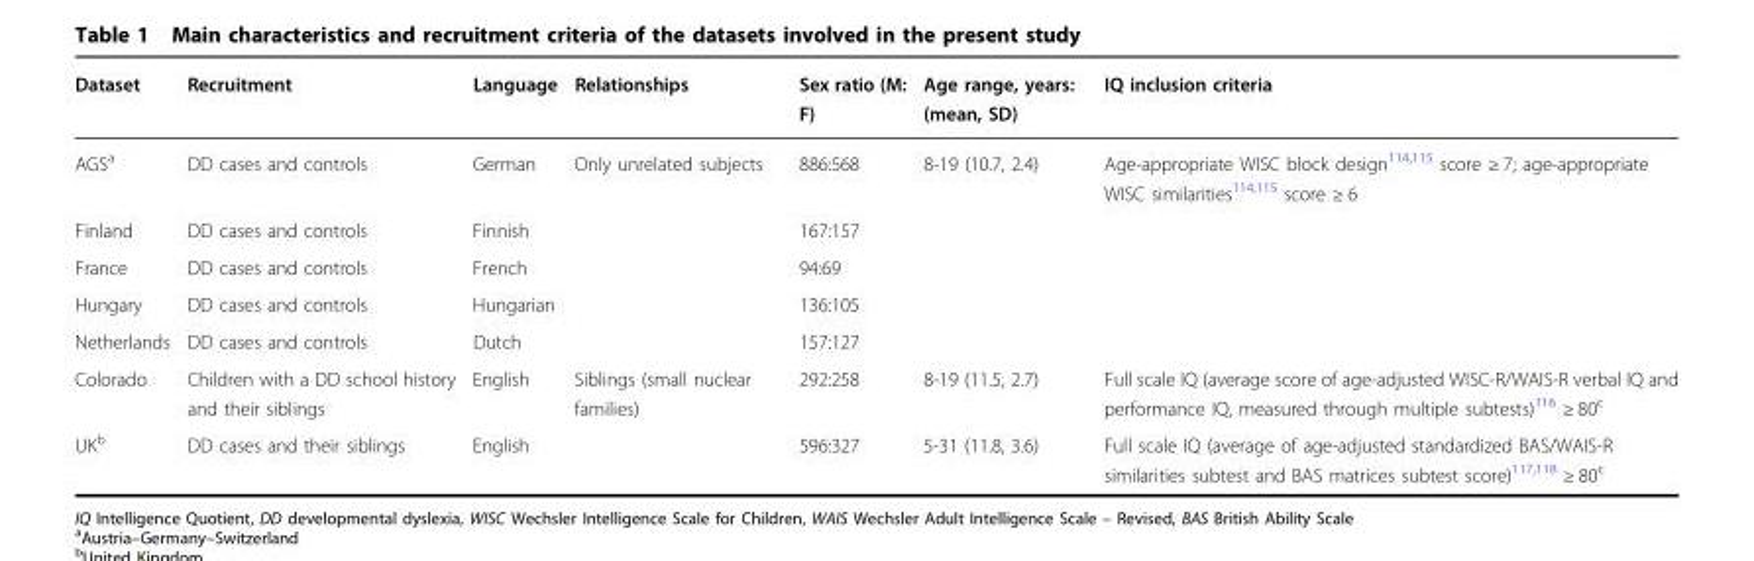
<table><thead><tr><td>Dataset</td><td>Recruitment</td><td>Language</td><td>Relationships</td><td>Sex ratio (M: F)</td><td>Age range, years: (mean, SD)</td><td>IQ inclusion criteria</td></tr></thead><tbody><tr><td>AGS<sup>a</sup></td><td>DD cases and controls</td><td>German</td><td>Only unrelated subjects</td><td>886:568</td><td>8-19 (10.7, 2.4)</td><td>Age-appropriate WISC block design<sup>114,115</sup> score ≥ 7; age-appropriate WISC similarities<sup>114,115</sup> score ≥ 6</td></tr><tr><td>Finland</td><td>DD cases and controls</td><td>Finnish</td><td></td><td>167:157</td><td></td><td></td></tr><tr><td>France</td><td>DD cases and controls</td><td>French</td><td></td><td>94:69</td><td></td><td></td></tr><tr><td>Hungary</td><td>DD cases and controls</td><td>Hungarian</td><td></td><td>136:105</td><td></td><td></td></tr><tr><td>Netherlands</td><td>DD cases and controls</td><td>Dutch</td><td></td><td>157:127</td><td></td><td></td></tr><tr><td>Colorado</td><td>Children with a DD school history and their siblings</td><td>English</td><td>Siblings (small nuclear families)</td><td>292:258</td><td>8-19 (11.5, 2.7)</td><td>Full scale IQ (average score of age-adjusted WISC-R/WAIS-R verbal IQ and performance IQ, measured through multiple subtests)<sup>116</sup> ≥ 80<sup>c</sup></td></tr><tr><td>UK<sup>b</sup></td><td>DD cases and their siblings</td><td>English</td><td></td><td>596:327</td><td>5-31 (11.8, 3.6)</td><td>Full scale IQ (average of age-adjusted standardized BAS/WAIS-R similarities subtest and BAS matrices subtest score)<sup>117,118</sup> ≥ 80<sup>c</sup></td></tr></tbody></table>